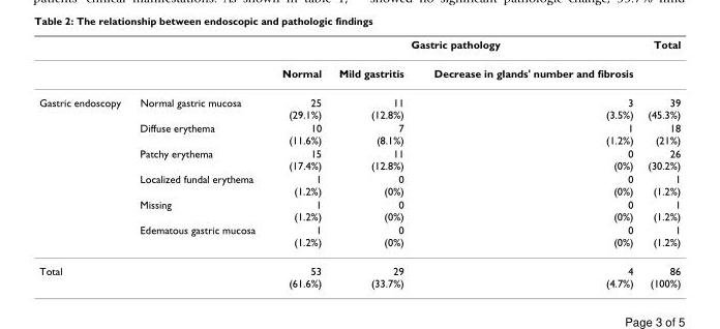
<table><thead><tr><td rowspan="2"></td><td rowspan="2"></td><td colspan="3">Gastric pathology</td><td rowspan="2">Total</td></tr><tr><td>Normal</td><td>Mild gastritis</td><td>Decrease in glands&#x27; number and fibrosis</td></tr></thead><tbody><tr><td rowspan="6">Gastric endoscopy</td><td>Normal gastric mucosa</td><td>25 (29.1%)</td><td>11 (12.8%)</td><td>3 (3.5%)</td><td>39 (45.3%)</td></tr><tr><td>Diffuse erythema</td><td>10 (11.6%)</td><td>7 (8.1%)</td><td>1 (1.2%)</td><td>18 (21%)</td></tr><tr><td>Patchy erythema</td><td>15 (17.4%)</td><td>11 (12.8%)</td><td>0 (0%)</td><td>26 (30.2%)</td></tr><tr><td>Localized fundal erythema</td><td>1 (1.2%)</td><td>0 (0%)</td><td>0 (0%)</td><td>1 (1.2%)</td></tr><tr><td>Missing</td><td>1 (1.2%)</td><td>0 (0%)</td><td>0 (0%)</td><td>1 (1.2%)</td></tr><tr><td>Edematous gastric mucosa</td><td>1 (1.2%)</td><td>0 (0%)</td><td>0 (0%)</td><td>1 (1.2%)</td></tr><tr><td>Total</td><td></td><td>53 (61.6%)</td><td>29 (33.7%)</td><td>4 (4.7%)</td><td>86 (100%)</td></tr></tbody></table>